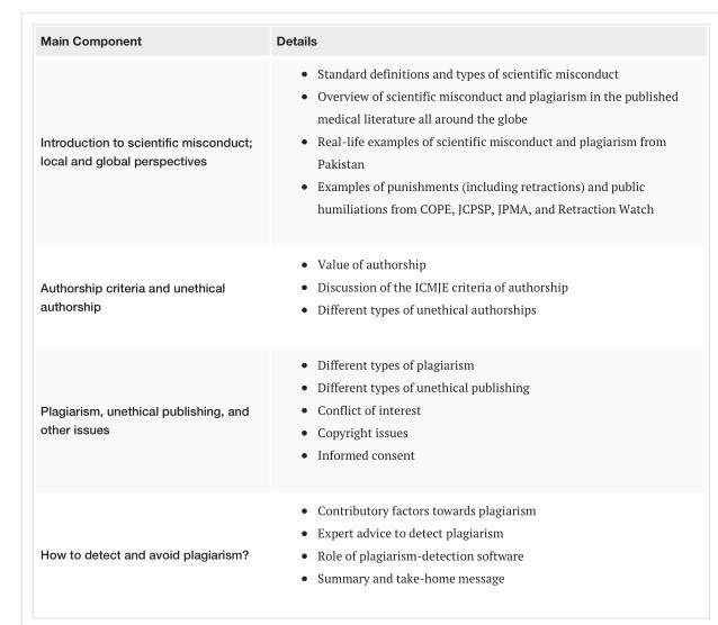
<table><tbody><tr><td>Main Component</td><td>Details</td></tr><tr><td>Introduction to scientific misconduct; local and global perspectives</td><td>Standard definitions and types of scientific misconduct Overview of scientific misconduct and plagiarism in the published medical literature all around the globe Real-life examples of scientific misconduct and plagiarism from Pakistan Examples of punishments (including retractions) and public humiliations from COPE, JCPSP, JPMA, and Retraction Watch</td></tr><tr><td>Authorship criteria and unethical authorship</td><td>Value of authorship Discussion of the ICMJE criteria of authorship Different types of unethical authorships</td></tr><tr><td>Plagiarism, unethical publishing, and other issues</td><td>Different types of plagiarism Different types of unethical publishing Conflict of interest Copyright issues Informed consent</td></tr><tr><td>How to detect and avoid plagiarism?</td><td>Contributory factors towards plagiarism Expert advice to detect plagiarism Role of plagiarism-detection software Summary and take-home message</td></tr></tbody></table>